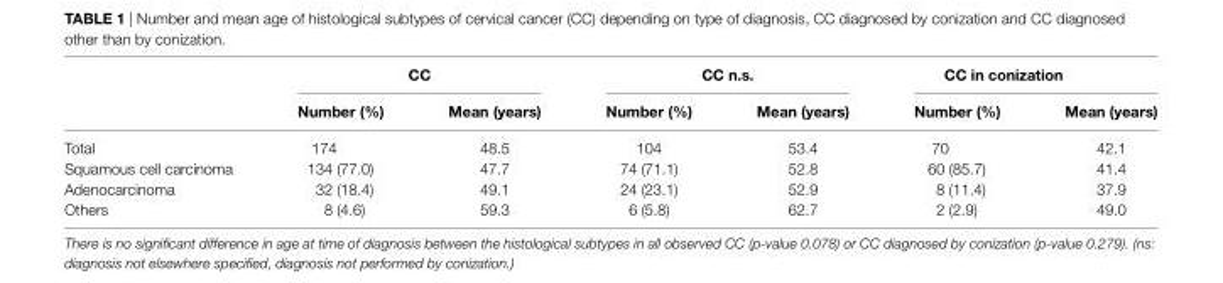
<table><thead><tr><td rowspan="2"></td><td colspan="2">cc</td><td colspan="2">cc n.s.</td><td colspan="2">cc in conization</td></tr><tr><td>number (%)</td><td>Mean (years)</td><td>number (%)</td><td>Mean (years)</td><td>number (%)</td><td>Mean (years)</td></tr></thead><tbody><tr><td>Total</td><td>174</td><td>48.5</td><td>104</td><td>53.4</td><td>70</td><td>42.1</td></tr><tr><td>Squamous cell carcinoma</td><td>134 (77.0)</td><td>47.7</td><td>74 (71.1)</td><td>52.8</td><td>60 (85.7)</td><td>41.4</td></tr><tr><td>Adenocarcinoma</td><td>32 (18.4)</td><td>49.1</td><td>24 (23.1)</td><td>52.9</td><td>8 (11.4)</td><td>37.9</td></tr><tr><td>Others</td><td>8 (4.6)</td><td>59.3</td><td>6 (5.8)</td><td>62.7</td><td>2 (2.9)</td><td>49.0</td></tr></tbody></table>